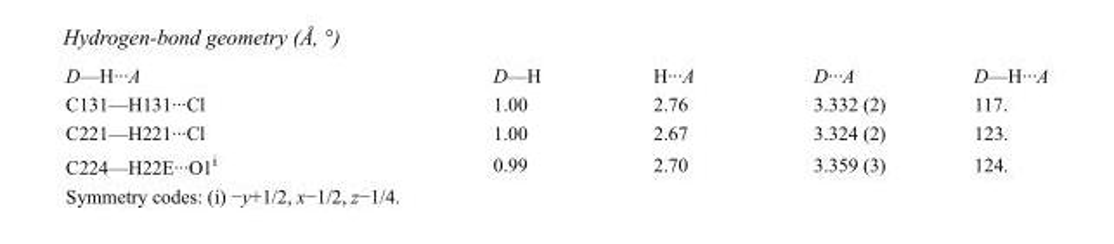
<table><tbody><tr><td>D—H···A</td><td>D—H</td><td>H···A</td><td>D···A</td><td>D—H···A</td></tr><tr><td>C131—H131···Cl</td><td>1.00</td><td>2.76</td><td>3.332 (2)</td><td>117.</td></tr><tr><td>C221—H221···Cl</td><td>1.00</td><td>2.67</td><td>3.324 (2)</td><td>123.</td></tr><tr><td>C224—H22E···O1<sup>i</sup></td><td>0.99</td><td>2.70</td><td>3.359 (3)</td><td>124.</td></tr></tbody></table>